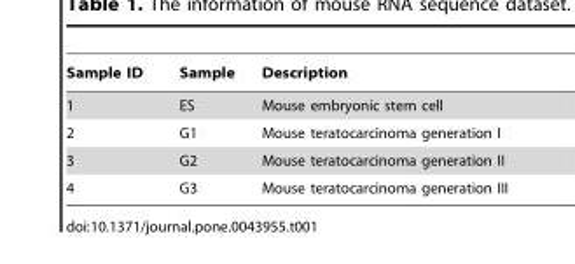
<table><thead><tr><td>Sample ID</td><td>Sample</td><td>Description</td></tr></thead><tbody><tr><td>1</td><td>ES</td><td>Mouse embryonic stem cell</td></tr><tr><td>2</td><td>G1</td><td>Mouse teratocarcinoma generation I</td></tr><tr><td>3</td><td>G2</td><td>Mouse teratocarcinoma generation II</td></tr><tr><td>4</td><td>G3</td><td>Mouse teratocarcinoma generation III</td></tr></tbody></table>